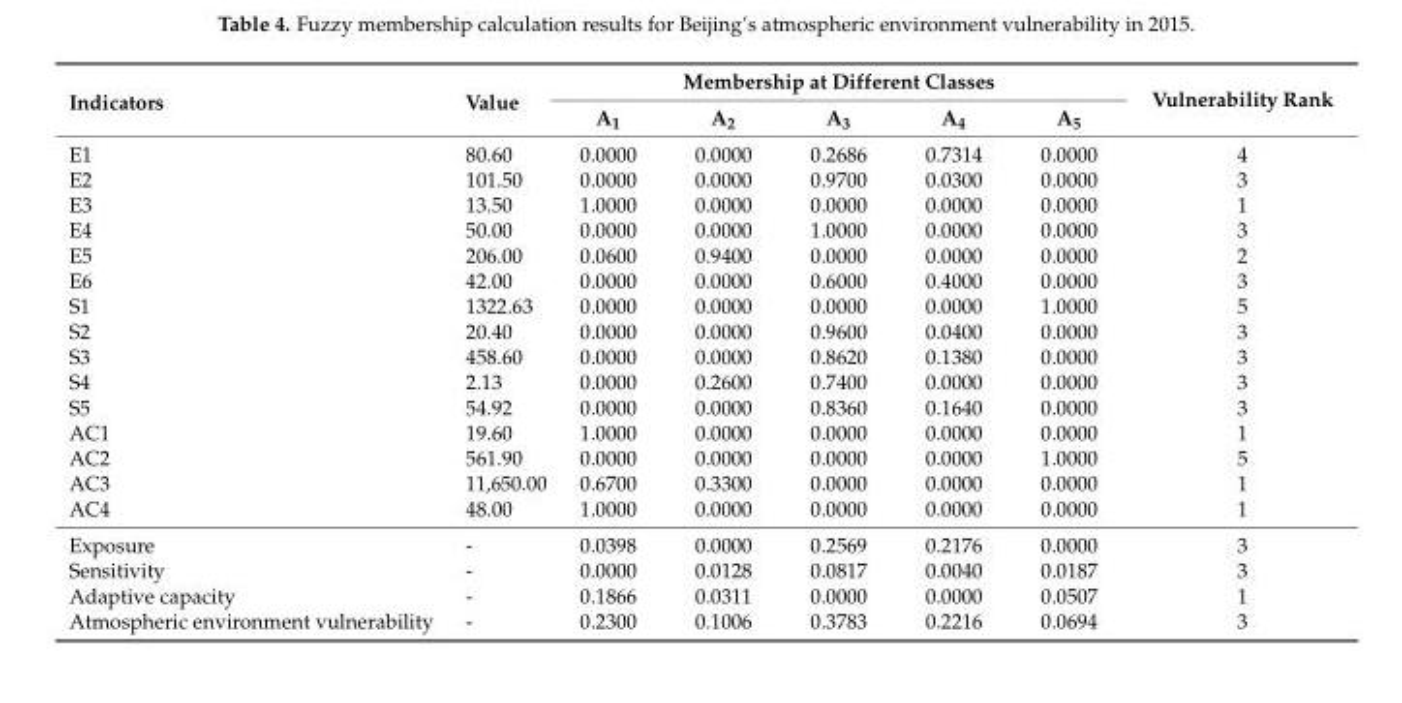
<table><thead><tr><td rowspan="2">Indicators</td><td rowspan="2">Value</td><td colspan="5">Membership at Different Classes</td><td rowspan="2">Vulnerability Rank</td></tr><tr><td>A<sub>1</sub></td><td>A<sub>2</sub></td><td>A<sub>3</sub></td><td>A<sub>4</sub></td><td>A<sub>5</sub></td></tr></thead><tbody><tr><td>E1</td><td>80.60</td><td>0.0000</td><td>0.0000</td><td>0.2686</td><td>0.7314</td><td>0.0000</td><td>4</td></tr><tr><td>E2</td><td>101.50</td><td>0.0000</td><td>0.0000</td><td>0.9700</td><td>0.0300</td><td>0.0000</td><td>3</td></tr><tr><td>E3</td><td>13.50</td><td>1.0000</td><td>0.0000</td><td>0.0000</td><td>0.0000</td><td>0.0000</td><td>1</td></tr><tr><td>E4</td><td>50.00</td><td>0.0000</td><td>0.0000</td><td>1.0000</td><td>0.0000</td><td>0.0000</td><td>3</td></tr><tr><td>E5</td><td>206.00</td><td>0.0600</td><td>0.9400</td><td>0.0000</td><td>0.0000</td><td>0.0000</td><td>2</td></tr><tr><td>E6</td><td>42.00</td><td>0.0000</td><td>0.0000</td><td>0.6000</td><td>0.4000</td><td>0.0000</td><td>3</td></tr><tr><td>S1</td><td>1322.63</td><td>0.0000</td><td>0.0000</td><td>0.0000</td><td>0.0000</td><td>1.0000</td><td>5</td></tr><tr><td>S2</td><td>20.40</td><td>0.0000</td><td>0.0000</td><td>0.9600</td><td>0.0400</td><td>0.0000</td><td>3</td></tr><tr><td>S3</td><td>458.60</td><td>0.0000</td><td>0.0000</td><td>0.8620</td><td>0.1380</td><td>0.0000</td><td>3</td></tr><tr><td>S4</td><td>2.13</td><td>0.0000</td><td>0.2600</td><td>0.7400</td><td>0.0000</td><td>0.0000</td><td>3</td></tr><tr><td>S5</td><td>54.92</td><td>0.0000</td><td>0.0000</td><td>0.8360</td><td>0.1640</td><td>0.0000</td><td>3</td></tr><tr><td>AC1</td><td>19.60</td><td>1.0000</td><td>0.0000</td><td>0.0000</td><td>0.0000</td><td>0.0000</td><td>1</td></tr><tr><td>AC2</td><td>561.90</td><td>0.0000</td><td>0.0000</td><td>0.0000</td><td>0.0000</td><td>1.0000</td><td>5</td></tr><tr><td>AC3</td><td>11,650.00</td><td>0.6700</td><td>0.3300</td><td>0.0000</td><td>0.0000</td><td>0.0000</td><td>1</td></tr><tr><td>AC4</td><td>48.00</td><td>1.0000</td><td>0.0000</td><td>0.0000</td><td>0.0000</td><td>0.0000</td><td>1</td></tr><tr><td>Exposure</td><td>-</td><td>0.0398</td><td>0.0000</td><td>0.2569</td><td>0.2176</td><td>0.0000</td><td>3</td></tr><tr><td>Sensitivity</td><td>-</td><td>0.0000</td><td>0.0128</td><td>0.0817</td><td>0.0040</td><td>0.0187</td><td>3</td></tr><tr><td>Adaptive capacity</td><td>-</td><td>0.1866</td><td>0.0311</td><td>0.0000</td><td>0.0000</td><td>0.0507</td><td>1</td></tr><tr><td>Atmospheric environment vulnerability</td><td>-</td><td>0.2300</td><td>0.1006</td><td>0.3783</td><td>0.2216</td><td>0.0694</td><td>3</td></tr></tbody></table>